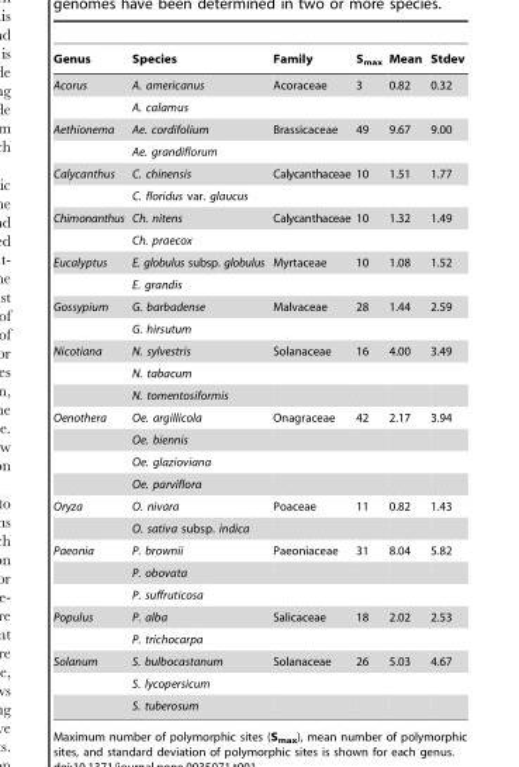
<table><thead><tr><td>Genus</td><td>Species</td><td>Family</td><td>S<sub>max</sub></td><td>Mean</td><td>Stdev</td></tr></thead><tbody><tr><td rowspan="2">Acorus</td><td>A. americanus</td><td>Acoraceae</td><td>3</td><td>0.82</td><td>0.32</td></tr><tr><td>A. calamus</td><td></td><td></td><td></td><td></td></tr><tr><td rowspan="2">Aethionema</td><td>Ae. cordifolium</td><td>Brassicaceae</td><td>49</td><td>9.67</td><td>9.00</td></tr><tr><td>Ae. grandiflorum</td><td></td><td></td><td></td><td></td></tr><tr><td rowspan="2">Calycanthus</td><td>C. chinensis</td><td>Calycanthaceae</td><td>10</td><td>1.51</td><td>1.77</td></tr><tr><td>C. floridus var. glaucus</td><td></td><td></td><td></td><td></td></tr><tr><td rowspan="2">Chimonanthus</td><td>Ch. nitens</td><td>Calycanthaceae</td><td>10</td><td>1.32</td><td>1.49</td></tr><tr><td>Ch. praecox</td><td></td><td></td><td></td><td></td></tr><tr><td rowspan="2">Eucalyptus</td><td>E. globulus subsp. globulus</td><td>Myrtaceae</td><td>10</td><td>1.08</td><td>1.52</td></tr><tr><td>E. grandis</td><td></td><td></td><td></td><td></td></tr><tr><td rowspan="2">Gossypium</td><td>G. barbadense</td><td>Malvaceae</td><td>28</td><td>1.44</td><td>2.59</td></tr><tr><td>G. hirsutum</td><td></td><td></td><td></td><td></td></tr><tr><td rowspan="3">Nicotiana</td><td>N. sylvestris</td><td>Solanaceae</td><td>16</td><td>4.00</td><td>3.49</td></tr><tr><td>N. tabacum</td><td></td><td></td><td></td><td></td></tr><tr><td>N. tomentosiformis</td><td></td><td></td><td></td><td></td></tr><tr><td rowspan="4">Oenothera</td><td>Oe. argillicola</td><td>Onagraceae</td><td>42</td><td>2.17</td><td>3.94</td></tr><tr><td>Oe. biennis</td><td></td><td></td><td></td><td></td></tr><tr><td>Oe. glazioviana</td><td></td><td></td><td></td><td></td></tr><tr><td>Oe. parviflora</td><td></td><td></td><td></td><td></td></tr><tr><td rowspan="2">Oryza</td><td>O. nivara</td><td>Poaceae</td><td>11</td><td>0.82</td><td>1.43</td></tr><tr><td>O. sativa subsp. indica</td><td></td><td></td><td></td><td></td></tr><tr><td rowspan="3">Paeonia</td><td>P. brownii</td><td>Paeoniaceae</td><td>31</td><td>8.04</td><td>5.82</td></tr><tr><td>P. obovata</td><td></td><td></td><td></td><td></td></tr><tr><td>P. suffruticosa</td><td></td><td></td><td></td><td></td></tr><tr><td rowspan="2">Populus</td><td>P. alba</td><td>Salicaceae</td><td>18</td><td>2.02</td><td>2.53</td></tr><tr><td>P. trichocarpa</td><td></td><td></td><td></td><td></td></tr><tr><td rowspan="3">Solanum</td><td>S. bulbocastanum</td><td>Solanaceae</td><td>26</td><td>5.03</td><td>4.67</td></tr><tr><td>S. lycopersicum</td><td></td><td></td><td></td><td></td></tr><tr><td>S. tuberosum</td><td></td><td></td><td></td><td></td></tr></tbody></table>